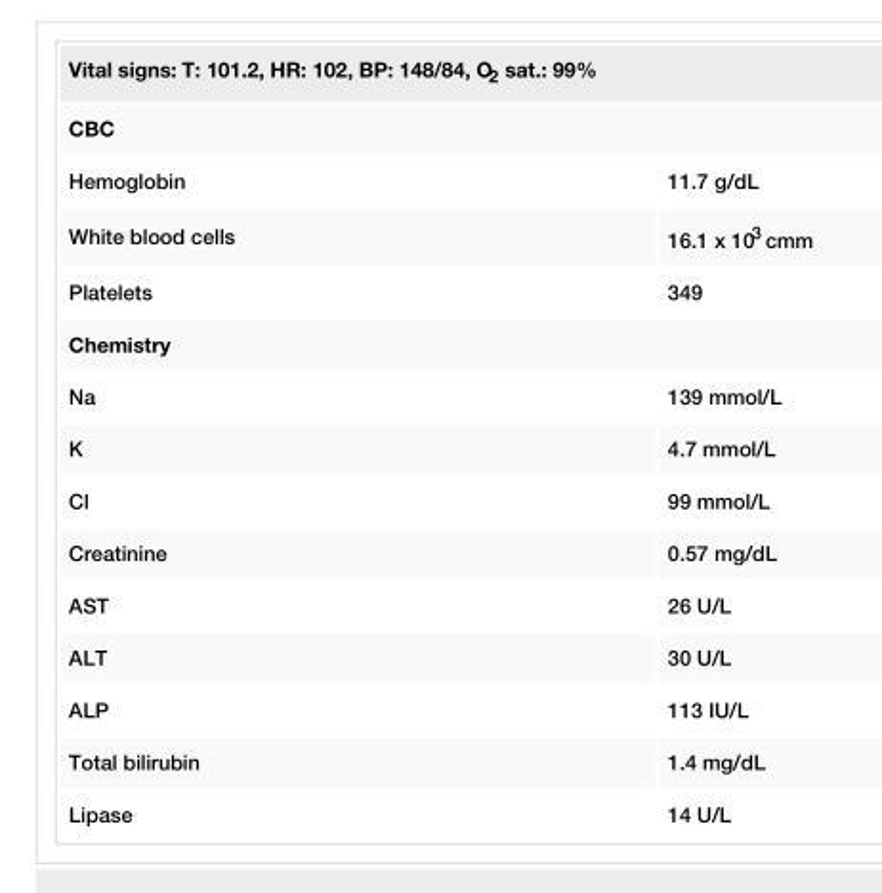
<table><tbody><tr><td colspan="2">Vital signs: T: 101.2, HR: 102, BP: 148/84, O<sub>2</sub> sat.: 99%</td></tr><tr><td colspan="2">CBC</td></tr><tr><td>Hemoglobin</td><td>11.7 g/dL</td></tr><tr><td>White blood cells</td><td>16.1 x 10<sup>3</sup> cmm</td></tr><tr><td>Platelets</td><td>349</td></tr><tr><td colspan="2">Chemistry</td></tr><tr><td>Na</td><td>139 mmol/L</td></tr><tr><td>K</td><td>4.7 mmol/L</td></tr><tr><td>Cl</td><td>99 mmol/L</td></tr><tr><td>Creatinine</td><td>0.57 mg/dL</td></tr><tr><td>AST</td><td>26 U/L</td></tr><tr><td>ALT</td><td>30 U/L</td></tr><tr><td>ALP</td><td>113 IU/L</td></tr><tr><td>Total bilirubin</td><td>1.4 mg/dL</td></tr><tr><td>Lipase</td><td>14 U/L</td></tr></tbody></table>